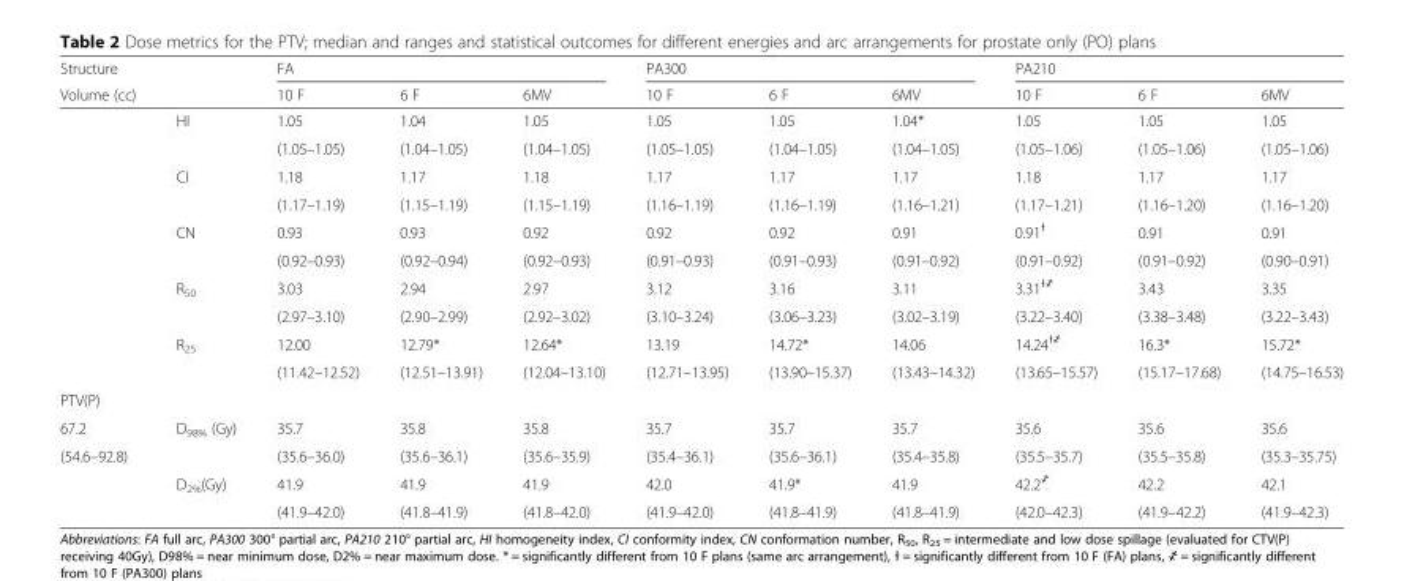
<table><thead><tr><td rowspan="2">Structure Volume (cc)</td><td rowspan="2"></td><td colspan="3">FA</td><td colspan="3">PA300</td><td colspan="3">PA210</td></tr><tr><td>10 F</td><td>6 F</td><td>6MV</td><td>10 F</td><td>6 F</td><td>6MV</td><td>10 F</td><td>6 F</td><td>6MV</td></tr></thead><tbody><tr><td></td><td>HI</td><td>1.05</td><td>1.04</td><td>1.05</td><td>1.05</td><td>1.05</td><td>1.04*</td><td>1.05</td><td>1.05</td><td>1.05</td></tr><tr><td></td><td></td><td>(1.05–1.05)</td><td>(1.04–1.05)</td><td>(1.04–1.05)</td><td>(1.05–1.05)</td><td>(1.04–1.05)</td><td>(1.04–1.05)</td><td>(1.05–1.06)</td><td>(1.05–1.06)</td><td>(1.05–1.06)</td></tr><tr><td></td><td>CI</td><td>1.18</td><td>1.17</td><td>1.18</td><td>1.17</td><td>1.17</td><td>1.17</td><td>1.18</td><td>1.17</td><td>1.17</td></tr><tr><td></td><td></td><td>(1.17–1.19)</td><td>(1.15–1.19)</td><td>(1.15–1.19)</td><td>(1.16–1.19)</td><td>(1.16–1.19)</td><td>(1.16–1.21)</td><td>(1.17–1.21)</td><td>(1.16–1.20)</td><td>(1.16–1.20)</td></tr><tr><td></td><td>CN</td><td>0.93</td><td>0.93</td><td>0.92</td><td>0.92</td><td>0.92</td><td>0.91</td><td>0.91<sup>ɫ</sup></td><td>0.91</td><td>0.91</td></tr><tr><td></td><td></td><td>(0.92–0.93)</td><td>(0.92–0.94)</td><td>(0.92–0.93)</td><td>(0.91–0.93)</td><td>(0.91–0.93)</td><td>(0.91–0.92)</td><td>(0.91–0.92)</td><td>(0.91–0.92)</td><td>(0.90–0.91)</td></tr><tr><td></td><td>R<sub>50</sub></td><td>3.03</td><td>2.94</td><td>2.97</td><td>3.12</td><td>3.16</td><td>3.11</td><td>3.31<sup>ɫ҂</sup></td><td>3.43</td><td>3.35</td></tr><tr><td></td><td></td><td>(2.97–3.10)</td><td>(2.90–2.99)</td><td>(2.92–3.02)</td><td>(3.10–3.24)</td><td>(3.06–3.23)</td><td>(3.02–3.19)</td><td>(3.22–3.40)</td><td>(3.38–3.48)</td><td>(3.22–3.43)</td></tr><tr><td></td><td>R<sub>25</sub></td><td>12.00</td><td>12.79*</td><td>12.64*</td><td>13.19</td><td>14.72*</td><td>14.06</td><td>14.24<sup>ɫ҂</sup></td><td>16.3*</td><td>15.72*</td></tr><tr><td></td><td></td><td>(11.42–12.52)</td><td>(12.51–13.91)</td><td>(12.04–13.10)</td><td>(12.71–13.95)</td><td>(13.90–15.37)</td><td>(13.43–14.32)</td><td>(13.65–15.57)</td><td>(15.17–17.68)</td><td>(14.75–16.53)</td></tr><tr><td colspan="11">PTV(P)</td></tr><tr><td>67.2</td><td>D<sub>98%</sub> (Gy)</td><td>35.7</td><td>35.8</td><td>35.8</td><td>35.7</td><td>35.7</td><td>35.7</td><td>35.6</td><td>35.6</td><td>35.6</td></tr><tr><td rowspan="3">(54.6–92.8)</td><td></td><td>(35.6–36.0)</td><td>(35.6–36.1)</td><td>(35.6–35.9)</td><td>(35.4–36.1)</td><td>(35.6–36.1)</td><td>(35.4–35.8)</td><td>(35.5–35.7)</td><td>(35.5–35.8)</td><td>(35.3–35.75)</td></tr><tr><td>D<sub>2%</sub>(Gy)</td><td>41.9</td><td>41.9</td><td>41.9</td><td>42.0</td><td>41.9*</td><td>41.9</td><td>42.2<sup>҂</sup></td><td>42.2</td><td>42.1</td></tr><tr><td></td><td>(41.9–42.0)</td><td>(41.8–41.9)</td><td>(41.8–42.0)</td><td>(41.9–42.0)</td><td>(41.8–41.9)</td><td>(41.8–41.9)</td><td>(42.0–42.3)</td><td>(41.9–42.2)</td><td>(41.9–42.3)</td></tr></tbody></table>